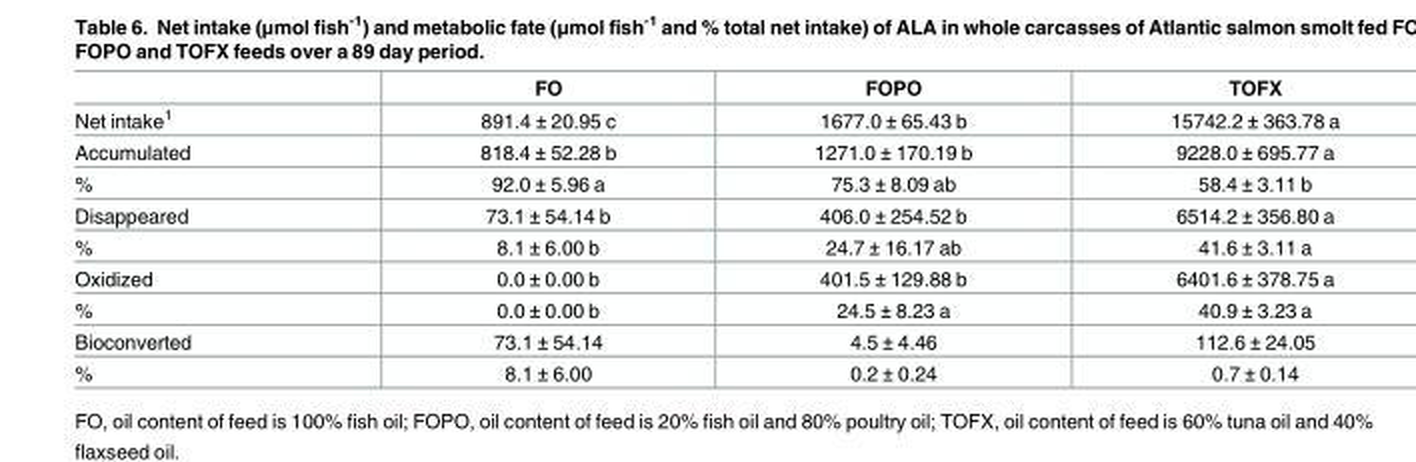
<table><thead><tr><td></td><td>FO</td><td>FOPO</td><td>TOFX</td></tr></thead><tbody><tr><td>Net intake<sup>1</sup></td><td>891.4 ± 20.95 c</td><td>1677.0 ± 65.43 b</td><td>15742.2 ± 363.78 a</td></tr><tr><td>Accumulated</td><td>818.4 ± 52.28 b</td><td>1271.0 ± 170.19 b</td><td>9228.0 ± 695.77 a</td></tr><tr><td>%</td><td>92.0 ± 5.96 a</td><td>75.3 ± 8.09 ab</td><td>58.4 ± 3.11 b</td></tr><tr><td>Disappeared</td><td>73.1 ± 54.14 b</td><td>406.0 ± 254.52 b</td><td>6514.2 ± 356.80 a</td></tr><tr><td>%</td><td>8.1 ± 6.00 b</td><td>24.7 ± 16.17 ab</td><td>41.6 ± 3.11 a</td></tr><tr><td>Oxidized</td><td>0.0 ± 0.00 b</td><td>401.5 ± 129.88 b</td><td>6401.6 ± 378.75 a</td></tr><tr><td>%</td><td>0.0 ± 0.00 b</td><td>24.5 ± 8.23 a</td><td>40.9 ± 3.23 a</td></tr><tr><td>Bioconverted</td><td>73.1 ± 54.14</td><td>4.5 ± 4.46</td><td>112.6 ± 24.05</td></tr><tr><td>%</td><td>8.1 ± 6.00</td><td>0.2 ± 0.24</td><td>0.7 ± 0.14</td></tr></tbody></table>